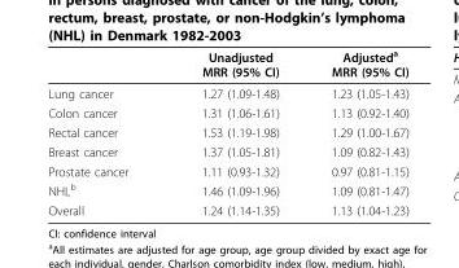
<table><thead><tr><td></td><td>Unadjusted MRR (95% CI)</td><td>Adjusted<sup>a</sup> MRR (95% CI)</td></tr></thead><tbody><tr><td>Lung cancer</td><td>1.27 (1.09-1.48)</td><td>1.23 (1.05-1.43)</td></tr><tr><td>Colon cancer</td><td>1.31 (1.06-1.61)</td><td>1.13 (0.92-1.40)</td></tr><tr><td>Rectal cancer</td><td>1.53 (1.19-1.98)</td><td>1.29 (1.00-1.67)</td></tr><tr><td>Breast cancer</td><td>1.37 (1.05-1.81)</td><td>1.09 (0.82-1.43)</td></tr><tr><td>Prostate cancer</td><td>1.11 (0.93-1.32)</td><td>0.97 (0.81-1.15)</td></tr><tr><td>NHL<sup>b</sup></td><td>1.46 (1.09-1.96)</td><td>1.09 (0.81-1.47)</td></tr><tr><td>Overall</td><td>1.24 (1.14-1.35)</td><td>1.13 (1.04-1.23)</td></tr></tbody></table>